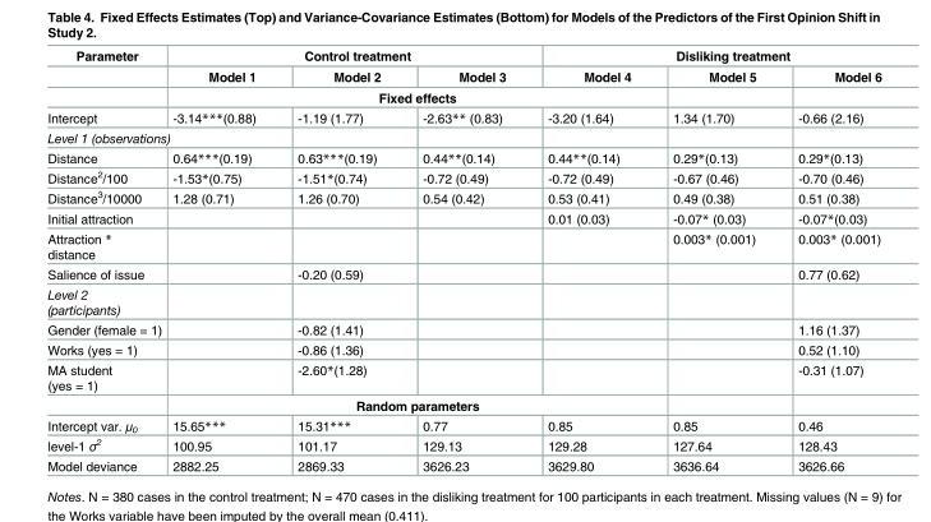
<table><thead><tr><td rowspan="2">Parameter</td><td colspan="3">Control treatment</td><td colspan="3">Disliking treatment</td></tr><tr><td>Model 1</td><td>Model 2</td><td>Model 3</td><td>Model 4</td><td>Model 5</td><td>Model 6</td></tr></thead><tbody><tr><td></td><td colspan="4">Fixed effects</td><td></td><td></td></tr><tr><td>Intercept</td><td>-3.14***(0.88)</td><td>-1.19 (1.77)</td><td>-2.63** (0.83)</td><td>-3.20 (1.64)</td><td>1.34 (1.70)</td><td>-0.66 (2.16)</td></tr><tr><td colspan="7">Level 1 (observations)</td></tr><tr><td>Distance</td><td>0.64***(0.19)</td><td>0.63***(0.19)</td><td>0.44**(0.14)</td><td>0.44**(0.14)</td><td>0.29*(0.13)</td><td>0.29*(0.13)</td></tr><tr><td>Distance<sup>2</sup>/100</td><td>-1.53*(0.75)</td><td>-1.51*(0.74)</td><td>-0.72 (0.49)</td><td>-0.72 (0.49)</td><td>-0.67 (0.46)</td><td>-0.70 (0.46)</td></tr><tr><td>Distance<sup>3</sup>/10000</td><td>1.28 (0.71)</td><td>1.26 (0.70)</td><td>0.54 (0.42)</td><td>0.53 (0.41)</td><td>0.49 (0.38)</td><td>0.51 (0.38)</td></tr><tr><td>Initial attraction</td><td></td><td></td><td></td><td>0.01 (0.03)</td><td>-0.07* (0.03)</td><td>-0.07*(0.03)</td></tr><tr><td>Attraction * distance</td><td></td><td></td><td></td><td></td><td>0.003* (0.001)</td><td>0.003* (0.001)</td></tr><tr><td>Salience of issue</td><td></td><td>-0.20 (0.59)</td><td></td><td></td><td></td><td>0.77 (0.62)</td></tr><tr><td colspan="7">Level 2 (participants)</td></tr><tr><td>Gender (female = 1)</td><td></td><td>-0.82 (1.41)</td><td></td><td></td><td></td><td>1.16 (1.37)</td></tr><tr><td>Works (yes = 1)</td><td></td><td>-0.86 (1.36)</td><td></td><td></td><td></td><td>0.52 (1.10)</td></tr><tr><td rowspan="2">MA student (yes = 1)</td><td></td><td>-2.60*(1.28)</td><td></td><td></td><td></td><td>-0.31 (1.07)</td></tr><tr><td colspan="4">Random parameters</td><td></td><td></td></tr><tr><td>Intercept var. μ<sub>0</sub></td><td>15.65***</td><td>15.31***</td><td>0.77</td><td>0.85</td><td>0.85</td><td>0.46</td></tr><tr><td>level-1 σ<sup>2</sup></td><td>100.95</td><td>101.17</td><td>129.13</td><td>129.28</td><td>127.64</td><td>128.43</td></tr><tr><td>Model deviance</td><td>2882.25</td><td>2869.33</td><td>3626.23</td><td>3629.80</td><td>3636.64</td><td>3626.66</td></tr></tbody></table>